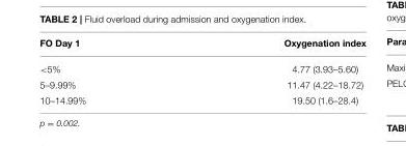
<table><thead><tr><td>FO Day 1</td><td>Oxygenation index</td></tr></thead><tbody><tr><td>&lt;5%</td><td>4.77 (3.93–5.60)</td></tr><tr><td>5–9.99%</td><td>11.47 (4.22–18.72)</td></tr><tr><td>10–14.99%</td><td>19.50 (1.6–28.4)</td></tr></tbody></table>